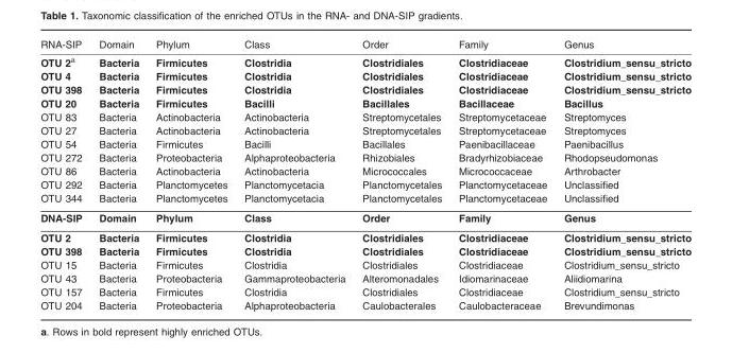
<table><thead><tr><td>RNA-SIP</td><td>Domain</td><td>Phylum</td><td>Class</td><td>Order</td><td>Family</td><td>Genus</td></tr></thead><tbody><tr><td>OTU 2a</td><td>Bacteria</td><td>Firmicutes</td><td>Clostridia</td><td>Clostridiales</td><td>Clostridiaceae</td><td>Clostridium_sensu_stricto</td></tr><tr><td>OTU 4</td><td>Bacteria</td><td>Firmicutes</td><td>Clostridia</td><td>Clostridiales</td><td>Clostridiaceae</td><td>Clostridium_sensu_stricto</td></tr><tr><td>OTU 398</td><td>Bacteria</td><td>Firmicutes</td><td>Clostridia</td><td>Clostridiales</td><td>Clostridiaceae</td><td>Clostridium_sensu_stricto</td></tr><tr><td>OTU 20</td><td>Bacteria</td><td>Firmicutes</td><td>Bacilli</td><td>Bacillales</td><td>Bacillaceae</td><td>Bacillus</td></tr><tr><td>OTU 83</td><td>Bacteria</td><td>Actinobacteria</td><td>Actinobacteria</td><td>Streptomycetales</td><td>Streptomycetaceae</td><td>Streptomyces</td></tr><tr><td>OTU 27</td><td>Bacteria</td><td>Actinobacteria</td><td>Actinobacteria</td><td>Streptomycetales</td><td>Streptomycetaceae</td><td>Streptomyces</td></tr><tr><td>OTU 54</td><td>Bacteria</td><td>Firmicutes</td><td>Bacilli</td><td>Bacillales</td><td>Paenibacillaceae</td><td>Paenibacillus</td></tr><tr><td>OTU 272</td><td>Bacteria</td><td>Proteobacteria</td><td>Alphaproteobacteria</td><td>Rhizobiales</td><td>Bradyrhizobiaceae</td><td>Rhodopseudomonas</td></tr><tr><td>OTU 86</td><td>Bacteria</td><td>Actinobacteria</td><td>Actinobacteria</td><td>Micrococcales</td><td>Micrococcaceae</td><td>Arthrobacter</td></tr><tr><td>OTU 292</td><td>Bacteria</td><td>Planctomycetes</td><td>Planctomycetacia</td><td>Planctomycetales</td><td>Planctomycetaceae</td><td>Unclassified</td></tr><tr><td>OTU 344</td><td>Bacteria</td><td>Planctomycetes</td><td>Planctomycetacia</td><td>Planctomycetales</td><td>Planctomycetaceae</td><td>Unclassified</td></tr><tr><td>DNA-SIP</td><td>Domain</td><td>Phylum</td><td>Class</td><td>Order</td><td>Family</td><td>Genus</td></tr><tr><td>OTU 2</td><td>Bacteria</td><td>Firmicutes</td><td>Clostridia</td><td>Clostridiales</td><td>Clostridiaceae</td><td>Clostridium_sensu_stricto</td></tr><tr><td>OTU 398</td><td>Bacteria</td><td>Firmicutes</td><td>Clostridia</td><td>Clostridiales</td><td>Clostridiaceae</td><td>Clostridium_sensu_stricto</td></tr><tr><td>OTU 15</td><td>Bacteria</td><td>Firmicutes</td><td>Clostridia</td><td>Clostridiales</td><td>Clostridiaceae</td><td>Clostridium_sensu_stricto</td></tr><tr><td>OTU 43</td><td>Bacteria</td><td>Proteobacteria</td><td>Gammaproteobacteria</td><td>Alteromonadales</td><td>Idiomarinaceae</td><td>Aliidiomarina</td></tr><tr><td>OTU 157</td><td>Bacteria</td><td>Firmicutes</td><td>Clostridia</td><td>Clostridiales</td><td>Clostridiaceae</td><td>Clostridium_sensu_stricto</td></tr><tr><td>OTU 204</td><td>Bacteria</td><td>Proteobacteria</td><td>Alphaproteobacteria</td><td>Caulobacterales</td><td>Caulobacteraceae</td><td>Brevundimonas</td></tr></tbody></table>